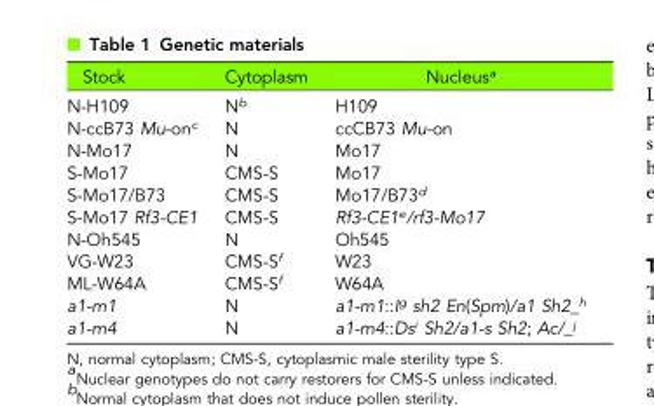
<table><thead><tr><td>Stock</td><td>Cytoplasm</td><td>Nucleus<sup>a</sup></td></tr></thead><tbody><tr><td>N-H109</td><td>N<sup>b</sup></td><td>H109</td></tr><tr><td>N-ccB73 Mu-on<sup>c</sup></td><td>N</td><td>ccCB73 Mu-on</td></tr><tr><td>N-Mo17</td><td>N</td><td>Mo17</td></tr><tr><td>S-Mo17</td><td>CMS-S</td><td>Mo17</td></tr><tr><td>S-Mo17/B73</td><td>CMS-S</td><td>Mo17/B73<sup>d</sup></td></tr><tr><td>S-Mo17 Rf3-CE1</td><td>CMS-S</td><td>Rf3-CE1<sup>e</sup>/rf3-Mo17</td></tr><tr><td>N-Oh545</td><td>N</td><td>Oh545</td></tr><tr><td>VG-W23</td><td>CMS-S<sup>f</sup></td><td>W23</td></tr><tr><td>ML-W64A</td><td>CMS-S<sup>f</sup></td><td>W64A</td></tr><tr><td>a1-m1</td><td>N</td><td>a1-m1::I<sup>g</sup> sh2 En(Spm)/a1 Sh2_<sup>h</sup></td></tr><tr><td>a1-m4</td><td>N</td><td>a1-m4::Ds<sup>i</sup> Sh2/a1-s Sh2; Ac/_<sup>j</sup></td></tr></tbody></table>